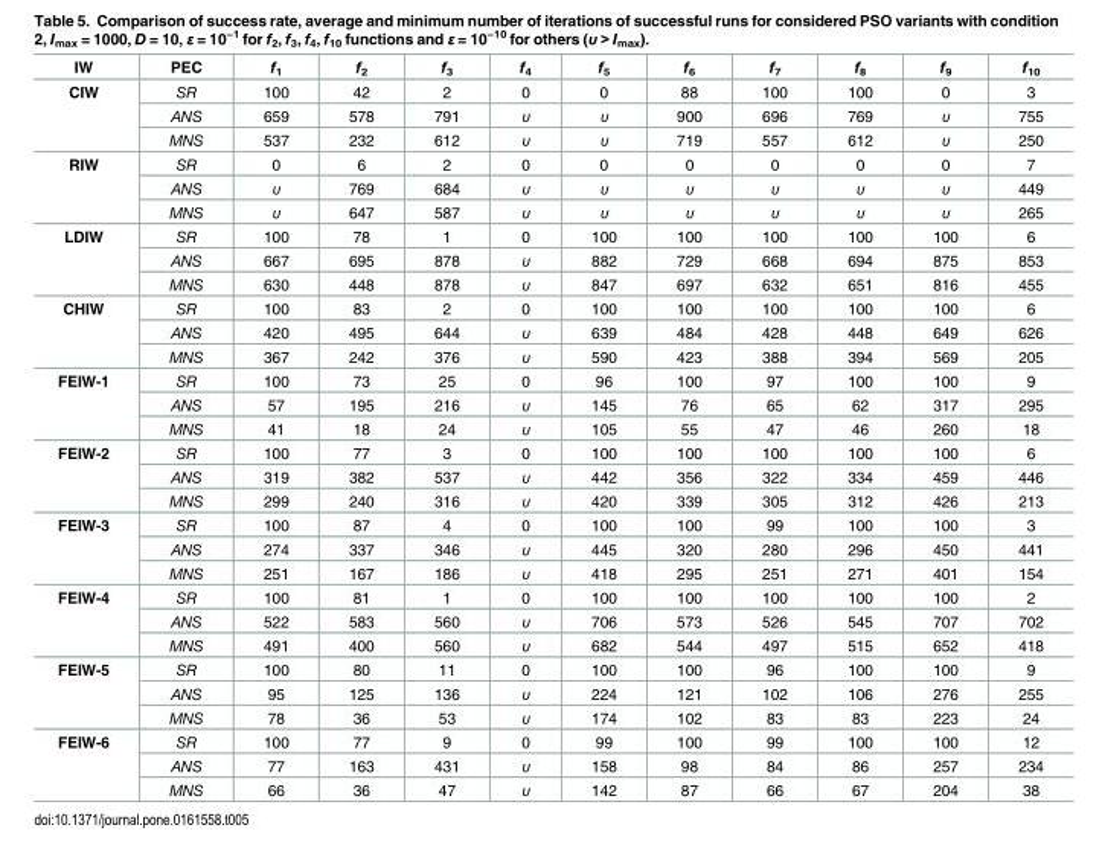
<table><thead><tr><td>IW</td><td>PEC</td><td>f<sub>1</sub></td><td>f<sub>2</sub></td><td>f<sub>3</sub></td><td>f<sub>4</sub></td><td>f<sub>5</sub></td><td>f<sub>6</sub></td><td>f<sub>7</sub></td><td>f<sub>8</sub></td><td>f<sub>9</sub></td><td>f<sub>10</sub></td></tr></thead><tbody><tr><td rowspan="3">CIW</td><td>SR</td><td>100</td><td>42</td><td>2</td><td>0</td><td>0</td><td>88</td><td>100</td><td>100</td><td>0</td><td>3</td></tr><tr><td>ANS</td><td>659</td><td>578</td><td>791</td><td>υ</td><td>υ</td><td>900</td><td>696</td><td>769</td><td>υ</td><td>755</td></tr><tr><td>MNS</td><td>537</td><td>232</td><td>612</td><td>υ</td><td>υ</td><td>719</td><td>557</td><td>612</td><td>υ</td><td>250</td></tr><tr><td rowspan="3">RIW</td><td>SR</td><td>0</td><td>6</td><td>2</td><td>0</td><td>0</td><td>0</td><td>0</td><td>0</td><td>0</td><td>7</td></tr><tr><td>ANS</td><td>υ</td><td>769</td><td>684</td><td>υ</td><td>υ</td><td>υ</td><td>υ</td><td>υ</td><td>υ</td><td>449</td></tr><tr><td>MNS</td><td>υ</td><td>647</td><td>587</td><td>υ</td><td>υ</td><td>υ</td><td>υ</td><td>υ</td><td>υ</td><td>265</td></tr><tr><td rowspan="3">LDIW</td><td>SR</td><td>100</td><td>78</td><td>1</td><td>0</td><td>100</td><td>100</td><td>100</td><td>100</td><td>100</td><td>6</td></tr><tr><td>ANS</td><td>667</td><td>695</td><td>878</td><td>υ</td><td>882</td><td>729</td><td>668</td><td>694</td><td>875</td><td>853</td></tr><tr><td>MNS</td><td>630</td><td>448</td><td>878</td><td>υ</td><td>847</td><td>697</td><td>632</td><td>651</td><td>816</td><td>455</td></tr><tr><td rowspan="3">CHIW</td><td>SR</td><td>100</td><td>83</td><td>2</td><td>0</td><td>100</td><td>100</td><td>100</td><td>100</td><td>100</td><td>6</td></tr><tr><td>ANS</td><td>420</td><td>495</td><td>644</td><td>υ</td><td>639</td><td>484</td><td>428</td><td>448</td><td>649</td><td>626</td></tr><tr><td>MNS</td><td>367</td><td>242</td><td>376</td><td>υ</td><td>590</td><td>423</td><td>388</td><td>394</td><td>569</td><td>205</td></tr><tr><td rowspan="3">FEIW-1</td><td>SR</td><td>100</td><td>73</td><td>25</td><td>0</td><td>96</td><td>100</td><td>97</td><td>100</td><td>100</td><td>9</td></tr><tr><td>ANS</td><td>57</td><td>195</td><td>216</td><td>υ</td><td>145</td><td>76</td><td>65</td><td>62</td><td>317</td><td>295</td></tr><tr><td>MNS</td><td>41</td><td>18</td><td>24</td><td>υ</td><td>105</td><td>55</td><td>47</td><td>46</td><td>260</td><td>18</td></tr><tr><td rowspan="3">FEIW-2</td><td>SR</td><td>100</td><td>77</td><td>3</td><td>0</td><td>100</td><td>100</td><td>100</td><td>100</td><td>100</td><td>6</td></tr><tr><td>ANS</td><td>319</td><td>382</td><td>537</td><td>υ</td><td>442</td><td>356</td><td>322</td><td>334</td><td>459</td><td>446</td></tr><tr><td>MNS</td><td>299</td><td>240</td><td>316</td><td>υ</td><td>420</td><td>339</td><td>305</td><td>312</td><td>426</td><td>213</td></tr><tr><td rowspan="3">FEIW-3</td><td>SR</td><td>100</td><td>87</td><td>4</td><td>0</td><td>100</td><td>100</td><td>99</td><td>100</td><td>100</td><td>3</td></tr><tr><td>ANS</td><td>274</td><td>337</td><td>346</td><td>υ</td><td>445</td><td>320</td><td>280</td><td>296</td><td>450</td><td>441</td></tr><tr><td>MNS</td><td>251</td><td>167</td><td>186</td><td>υ</td><td>418</td><td>295</td><td>251</td><td>271</td><td>401</td><td>154</td></tr><tr><td rowspan="3">FEIW-4</td><td>SR</td><td>100</td><td>81</td><td>1</td><td>0</td><td>100</td><td>100</td><td>100</td><td>100</td><td>100</td><td>2</td></tr><tr><td>ANS</td><td>522</td><td>583</td><td>560</td><td>υ</td><td>706</td><td>573</td><td>526</td><td>545</td><td>707</td><td>702</td></tr><tr><td>MNS</td><td>491</td><td>400</td><td>560</td><td>υ</td><td>682</td><td>544</td><td>497</td><td>515</td><td>652</td><td>418</td></tr><tr><td rowspan="3">FEIW-5</td><td>SR</td><td>100</td><td>80</td><td>11</td><td>0</td><td>100</td><td>100</td><td>96</td><td>100</td><td>100</td><td>9</td></tr><tr><td>ANS</td><td>95</td><td>125</td><td>136</td><td>υ</td><td>224</td><td>121</td><td>102</td><td>106</td><td>276</td><td>255</td></tr><tr><td>MNS</td><td>78</td><td>36</td><td>53</td><td>υ</td><td>174</td><td>102</td><td>83</td><td>83</td><td>223</td><td>24</td></tr><tr><td rowspan="3">FEIW-6</td><td>SR</td><td>100</td><td>77</td><td>9</td><td>0</td><td>99</td><td>100</td><td>99</td><td>100</td><td>100</td><td>12</td></tr><tr><td>ANS</td><td>77</td><td>163</td><td>431</td><td>υ</td><td>158</td><td>98</td><td>84</td><td>86</td><td>257</td><td>234</td></tr><tr><td>MNS</td><td>66</td><td>36</td><td>47</td><td>υ</td><td>142</td><td>87</td><td>66</td><td>67</td><td>204</td><td>38</td></tr></tbody></table>